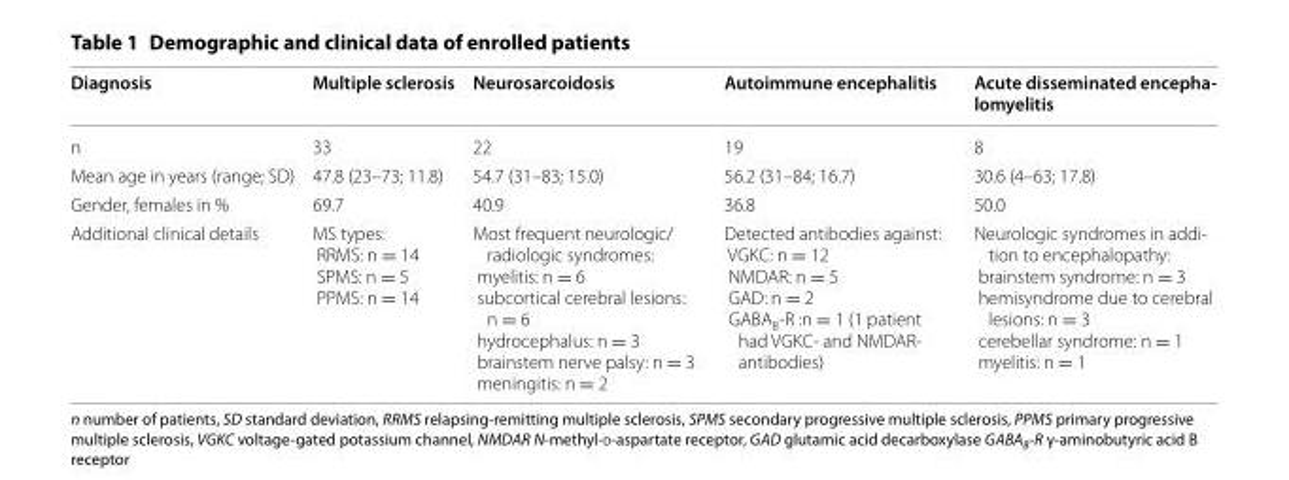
<table><thead><tr><td>Diagnosis</td><td>Multiple sclerosis</td><td>Neurosarcoidosis</td><td>Autoimmune encephalitis</td><td>Acute disseminated encepha- lomyelitis</td></tr></thead><tbody><tr><td>n</td><td>33</td><td>22</td><td>19</td><td>8</td></tr><tr><td>Mean age in years (range; SD)</td><td>47.8 (23–73; 11.8)</td><td>54.7 (31–83; 15.0)</td><td>56.2 (31–84; 16.7)</td><td>30.6 (4–63; 17.8)</td></tr><tr><td>Gender, females in %</td><td>69.7</td><td>40.9</td><td>36.8</td><td>50.0</td></tr><tr><td>Additional clinical details</td><td>MS types: RRMS: n = 14 SPMS: n = 5 PPMS: n = 14</td><td>Most frequent neurologic/ radiologic syndromes: myelitis: n = 6 subcortical cerebral lesions: n = 6 hydrocephalus: n = 3 brainstem nerve palsy: n = 3 meningitis: n = 2</td><td>Detected antibodies against: VGKC: n = 12 NMDAR: n = 5 GAD: n = 2 GABA<sub>B</sub>-R :n = 1 (1 patient had VGKC- and NMDAR- antibodies)</td><td>Neurologic syndromes in addi- tion to encephalopathy: brainstem syndrome: n = 3 hemisyndrome due to cerebral lesions: n = 3 cerebellar syndrome: n = 1 myelitis: n = 1</td></tr></tbody></table>